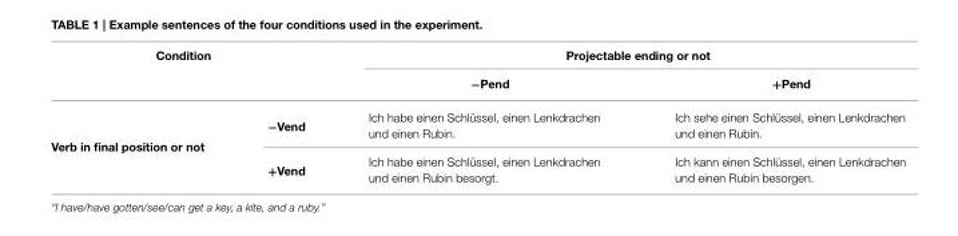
<table><thead><tr><td colspan="2">Condition</td><td colspan="2">Projectable ending or not</td></tr><tr><td></td><td></td><td>−Pend</td><td>+Pend</td></tr></thead><tbody><tr><td rowspan="2">Verb in final position or not</td><td>−Vend</td><td>Ich habe einen Schlüssel, einen Lenkdrachen und einen Rubin.</td><td>Ich sehe einen Schlüssel, einen Lenkdrachen und einen Rubin.</td></tr><tr><td>+Vend</td><td>Ich habe einen Schlüssel, einen Lenkdrachen und einen Rubin besorgt.</td><td>Ich kann einen Schlüssel, einen Lenkdrachen und einen Rubin besorgen.</td></tr></tbody></table>